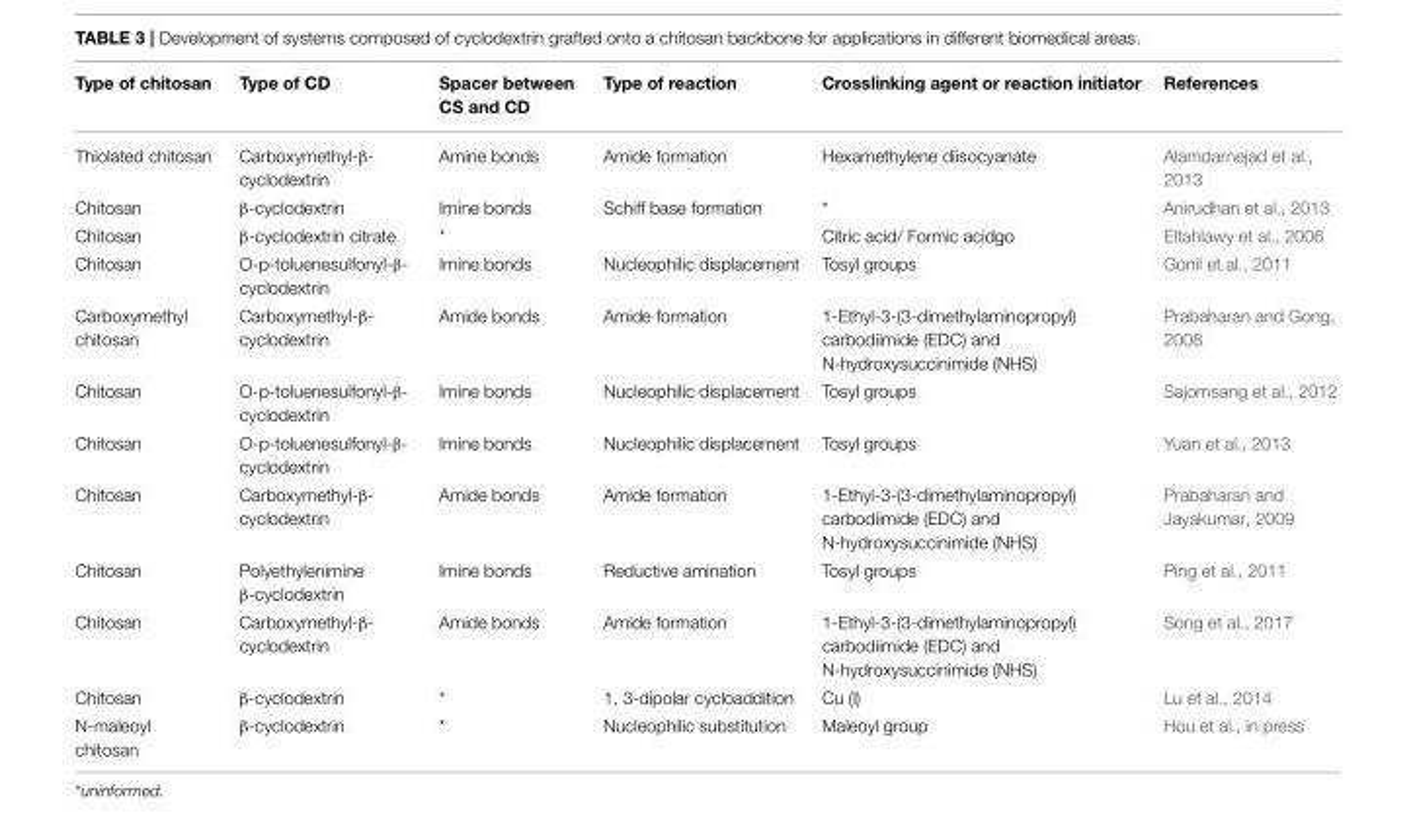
<table><thead><tr><td>Type of chitosan</td><td>Type of CD</td><td>Spacer between CS and CD</td><td>Type of reaction</td><td>Crosslinking agent or reaction initiator</td><td>References</td></tr></thead><tbody><tr><td>Thiolated chitosan</td><td>Carboxymethyl-β- cyclodextrin</td><td>Amine bonds</td><td>Amide formation</td><td>Hexamethylene diisocyanate</td><td>Alamdarnejad et al., 2013</td></tr><tr><td>Chitosan</td><td>β-cyclodextrin</td><td>Imine bonds</td><td>Schiff base formation</td><td>*</td><td>Anirudhan et al., 2013</td></tr><tr><td>Chitosan</td><td>β-cyclodextrin citrate</td><td>*</td><td></td><td>Citric acid/ Formic acidgo</td><td>Eltahlawy et al., 2006</td></tr><tr><td>Chitosan</td><td>O-p-toluenesulfonyl-β- cyclodextrin</td><td>Imine bonds</td><td>Nucleophilic displacement</td><td>Tosyl groups</td><td>Gonil et al., 2011</td></tr><tr><td>Carboxymethyl chitosan</td><td>Carboxymethyl-β- cyclodextrin</td><td>Amide bonds</td><td>Amide formation</td><td>1-Ethyl-3-(3-dimethylaminopropyl) carbodiimide (EDC) and N-hydroxysuccinimide (NHS)</td><td>Prabaharan and Gong, 2008</td></tr><tr><td>Chitosan</td><td>O-p-toluenesulfonyl-β- cyclodextrin</td><td>Imine bonds</td><td>Nucleophilic displacement</td><td>Tosyl groups</td><td>Sajomsang et al., 2012</td></tr><tr><td>Chitosan</td><td>O-p-toluenesulfonyl-β- cyclodextrin</td><td>Imine bonds</td><td>Nucleophilic displacement</td><td>Tosyl groups</td><td>Yuan et al., 2013</td></tr><tr><td>Chitosan</td><td>Carboxymethyl-β- cyclodextrin</td><td>Amide bonds</td><td>Amide formation</td><td>1-Ethyl-3-(3-dimethylaminopropyl) carbodiimide (EDC) and N-hydroxysuccinimide (NHS)</td><td>Prabaharan and Jayakumar, 2009</td></tr><tr><td>Chitosan</td><td>Polyethylenimine β-cyclodextrin</td><td>Imine bonds</td><td>Reductive amination</td><td>Tosyl groups</td><td>Ping et al., 2011</td></tr><tr><td>Chitosan</td><td>Carboxymethyl-β- cyclodextrin</td><td>Amide bonds</td><td>Amide formation</td><td>1-Ethyl-3-(3-dimethylaminopropyl) carbodiimide (EDC) and N-hydroxysuccinimide (NHS)</td><td>Song et al., 2017</td></tr><tr><td>Chitosan</td><td>β-cyclodextrin</td><td>*</td><td>1, 3-dipolar cycloaddition</td><td>Cu (I)</td><td>Lu et al., 2014</td></tr><tr><td>N-maleoyl chitosan</td><td>β-cyclodextrin</td><td>*</td><td>Nucleophilic substitution</td><td>Maleoyl group</td><td>Hou et al., in press</td></tr></tbody></table>